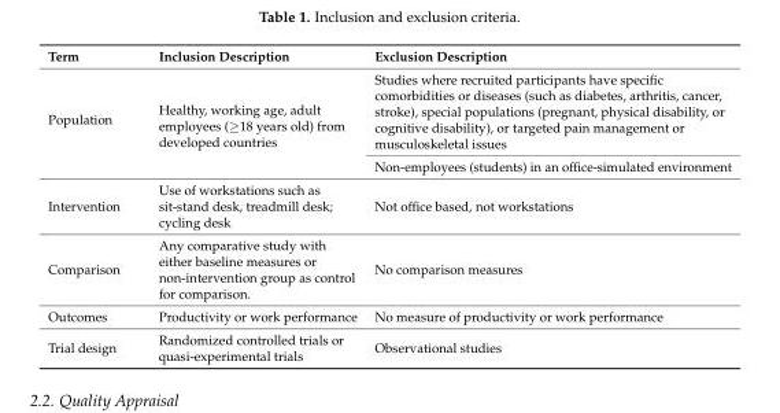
<table><thead><tr><td>Term</td><td>Inclusion Description</td><td>Exclusion Description</td></tr></thead><tbody><tr><td rowspan="2">Population</td><td rowspan="2">Healthy, working age, adult employees (≥18 years old) from developed countries</td><td>Studies where recruited participants have specific comorbidities or diseases (such as diabetes, arthritis, cancer, stroke), special populations (pregnant, physical disability, or cognitive disability), or targeted pain management or musculoskeletal issues</td></tr><tr><td>Non-employees (students) in an office-simulated environment</td></tr><tr><td>Intervention</td><td>Use of workstations such as sit-stand desk, treadmill desk; cycling desk</td><td>Not office based, not workstations</td></tr><tr><td>Comparison</td><td>Any comparative study with either baseline measures or non-intervention group as control for comparison.</td><td>No comparison measures</td></tr><tr><td>Outcomes</td><td>Productivity or work performance</td><td>No measure of productivity or work performance</td></tr><tr><td>Trial design</td><td>Randomized controlled trials or quasi-experimental trials</td><td>Observational studies</td></tr></tbody></table>